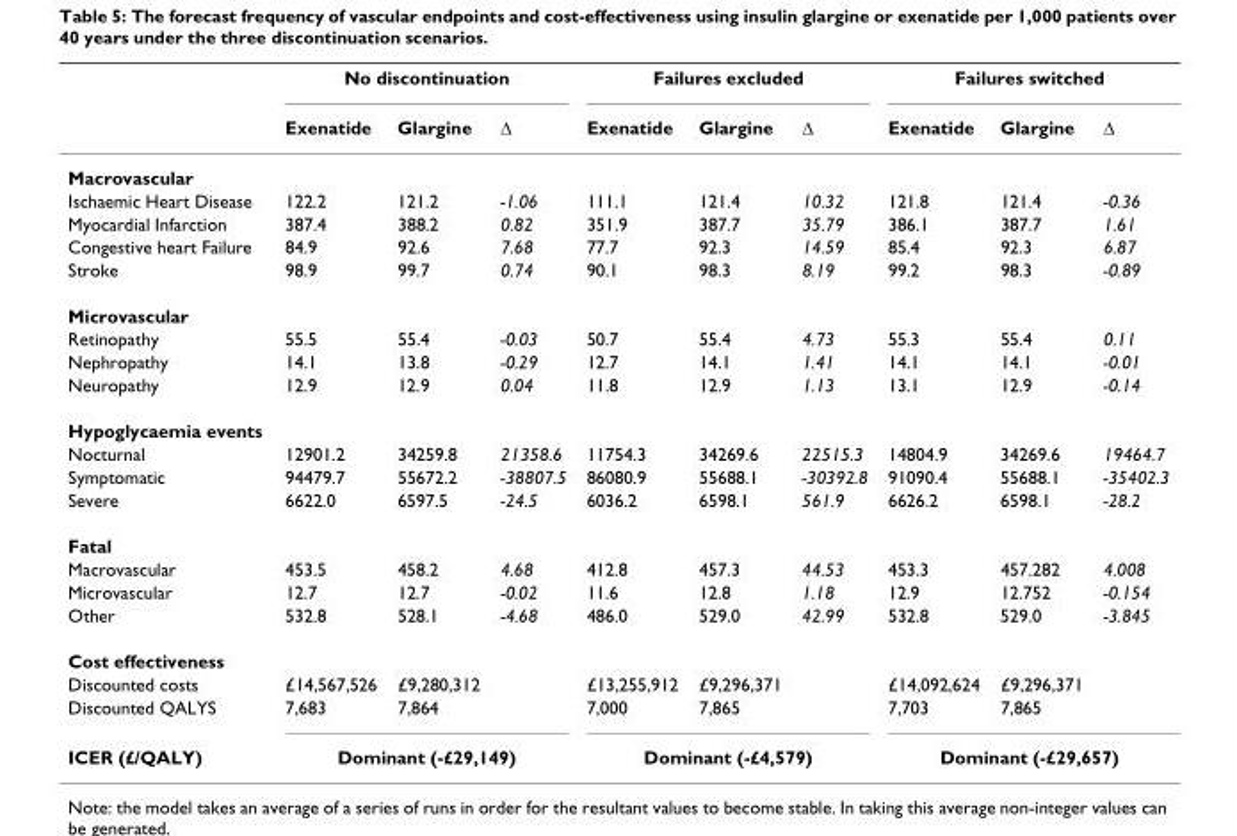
<table><thead><tr><td rowspan="2"></td><td colspan="3">No discontinuation</td><td colspan="3">Failures excluded</td><td colspan="3">Failures switched</td></tr><tr><td>Exenatide</td><td>Glargine</td><td>Δ</td><td>Exenatide</td><td>Glargine</td><td>Δ</td><td>Exenatide</td><td>Glargine</td><td>Δ</td></tr></thead><tbody><tr><td colspan="10">Macrovascular</td></tr><tr><td>Ischaemic Heart Disease</td><td>122.2</td><td>121.2</td><td>-1.06</td><td>111.1</td><td>121.4</td><td>10.32</td><td>121.8</td><td>121.4</td><td>-0.36</td></tr><tr><td>Myocardial Infarction</td><td>387.4</td><td>388.2</td><td>0.82</td><td>351.9</td><td>387.7</td><td>35.79</td><td>386.1</td><td>387.7</td><td>1.61</td></tr><tr><td>Congestive heart Failure</td><td>84.9</td><td>92.6</td><td>7.68</td><td>77.7</td><td>92.3</td><td>14.59</td><td>85.4</td><td>92.3</td><td>6.87</td></tr><tr><td>Stroke</td><td>98.9</td><td>99.7</td><td>0.74</td><td>90.1</td><td>98.3</td><td>8.19</td><td>99.2</td><td>98.3</td><td>-0.89</td></tr><tr><td colspan="10">Microvascular</td></tr><tr><td>Retinopathy</td><td>55.5</td><td>55.4</td><td>-0.03</td><td>50.7</td><td>55.4</td><td>4.73</td><td>55.3</td><td>55.4</td><td>0.11</td></tr><tr><td>Nephropathy</td><td>14.1</td><td>13.8</td><td>-0.29</td><td>12.7</td><td>14.1</td><td>1.41</td><td>14.1</td><td>14.1</td><td>-0.01</td></tr><tr><td>Neuropathy</td><td>12.9</td><td>12.9</td><td>0.04</td><td>11.8</td><td>12.9</td><td>1.13</td><td>13.1</td><td>12.9</td><td>-0.14</td></tr><tr><td colspan="10">Hypoglycaemia events</td></tr><tr><td>Nocturnal</td><td>12901.2</td><td>34259.8</td><td>21358.6</td><td>11754.3</td><td>34269.6</td><td>22515.3</td><td>14804.9</td><td>34269.6</td><td>19464.7</td></tr><tr><td>Symptomatic</td><td>94479.7</td><td>55672.2</td><td>-38807.5</td><td>86080.9</td><td>55688.1</td><td>-30392.8</td><td>91090.4</td><td>55688.1</td><td>-35402.3</td></tr><tr><td>Severe</td><td>6622.0</td><td>6597.5</td><td>-24.5</td><td>6036.2</td><td>6598.1</td><td>561.9</td><td>6626.2</td><td>6598.1</td><td>-28.2</td></tr><tr><td colspan="10">Fatal</td></tr><tr><td>Macrovascular</td><td>453.5</td><td>458.2</td><td>4.68</td><td>412.8</td><td>457.3</td><td>44.53</td><td>453.3</td><td>457.282</td><td>4.008</td></tr><tr><td>Microvascular</td><td>12.7</td><td>12.7</td><td>-0.02</td><td>11.6</td><td>12.8</td><td>1.18</td><td>12.9</td><td>12.752</td><td>-0.154</td></tr><tr><td>Other</td><td>532.8</td><td>528.1</td><td>-4.68</td><td>486.0</td><td>529.0</td><td>42.99</td><td>532.8</td><td>529.0</td><td>-3.845</td></tr><tr><td colspan="10">Cost effectiveness</td></tr><tr><td>Discounted costs</td><td>£14,567,526</td><td>£9,280,312</td><td></td><td>£13,255,912</td><td>£9,296,371</td><td></td><td>£14,092,624</td><td>£9,296,371</td><td></td></tr><tr><td>Discounted QALYS</td><td>7,683</td><td>7,864</td><td></td><td>7,000</td><td>7,865</td><td></td><td>7,703</td><td>7,865</td><td></td></tr><tr><td>ICER (£/QALY)</td><td colspan="3">Dominant (-£29,149)</td><td colspan="3">Dominant (-£4,579)</td><td colspan="3">Dominant (-£29,657)</td></tr></tbody></table>